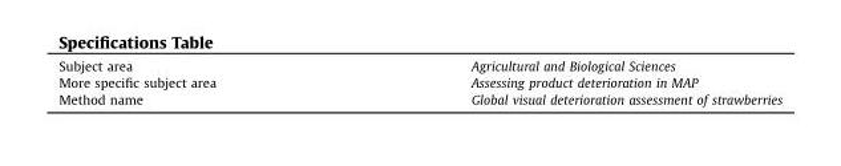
<table><tbody><tr><td>Subject area</td><td>Agricultural and Biological Sciences</td></tr><tr><td>More specific subject area</td><td>Assessing product deterioration in MAP</td></tr><tr><td>Method name</td><td>Global visual deterioration assessment of strawberries</td></tr></tbody></table>